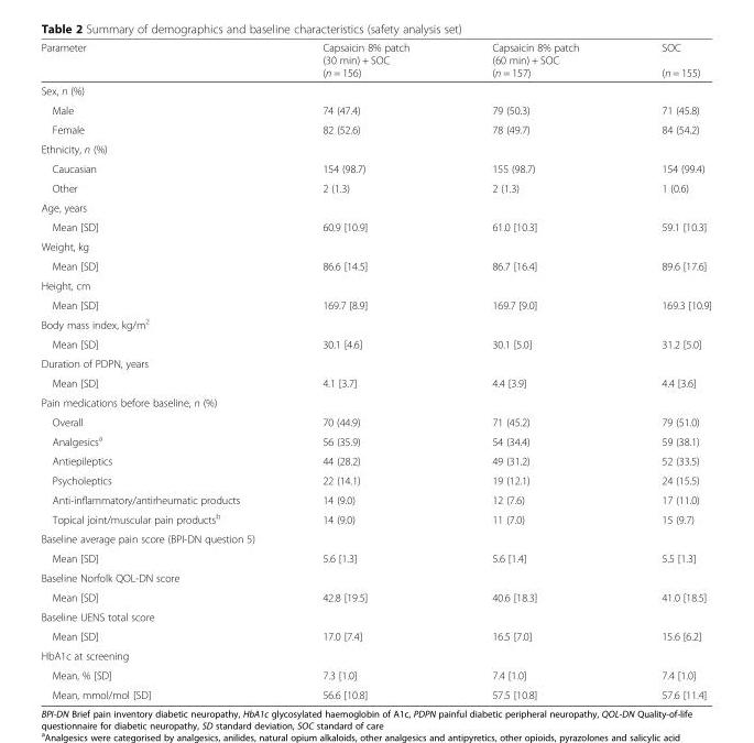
<table><thead><tr><td>Parameter</td><td>Capsaicin 8% patch (30 min) + SOC (n = 156)</td><td>Capsaicin 8% patch (60 min) + SOC (n = 157)</td><td>SOC (n = 155)</td></tr></thead><tbody><tr><td colspan="4">Sex, n (%)</td></tr><tr><td>Male</td><td>74 (47.4)</td><td>79 (50.3)</td><td>71 (45.8)</td></tr><tr><td>Female</td><td>82 (52.6)</td><td>78 (49.7)</td><td>84 (54.2)</td></tr><tr><td colspan="4">Ethnicity, n (%)</td></tr><tr><td>Caucasian</td><td>154 (98.7)</td><td>155 (98.7)</td><td>154 (99.4)</td></tr><tr><td>Other</td><td>2 (1.3)</td><td>2 (1.3)</td><td>1 (0.6)</td></tr><tr><td colspan="4">Age, years</td></tr><tr><td>Mean [SD]</td><td>60.9 [10.9]</td><td>61.0 [10.3]</td><td>59.1 [10.3]</td></tr><tr><td colspan="4">Weight, kg</td></tr><tr><td>Mean [SD]</td><td>86.6 [14.5]</td><td>86.7 [16.4]</td><td>89.6 [17.6]</td></tr><tr><td colspan="4">Height, cm</td></tr><tr><td>Mean [SD]</td><td>169.7 [8.9]</td><td>169.7 [9.0]</td><td>169.3 [10.9]</td></tr><tr><td colspan="4">Body mass index, kg/m<sup>2</sup></td></tr><tr><td>Mean [SD]</td><td>30.1 [4.6]</td><td>30.1 [5.0]</td><td>31.2 [5.0]</td></tr><tr><td colspan="4">Duration of PDPN, years</td></tr><tr><td>Mean [SD]</td><td>4.1 [3.7]</td><td>4.4 [3.9]</td><td>4.4 [3.6]</td></tr><tr><td colspan="4">Pain medications before baseline, n (%)</td></tr><tr><td>Overall</td><td>70 (44.9)</td><td>71 (45.2)</td><td>79 (51.0)</td></tr><tr><td>Analgesics<sup>a</sup></td><td>56 (35.9)</td><td>54 (34.4)</td><td>59 (38.1)</td></tr><tr><td>Antiepileptics</td><td>44 (28.2)</td><td>49 (31.2)</td><td>52 (33.5)</td></tr><tr><td>Psycholeptics</td><td>22 (14.1)</td><td>19 (12.1)</td><td>24 (15.5)</td></tr><tr><td>Anti-inflammatory/antirheumatic products</td><td>14 (9.0)</td><td>12 (7.6)</td><td>17 (11.0)</td></tr><tr><td>Topical joint/muscular pain products<sup>b</sup></td><td>14 (9.0)</td><td>11 (7.0)</td><td>15 (9.7)</td></tr><tr><td colspan="4">Baseline average pain score (BPI-DN question 5)</td></tr><tr><td>Mean [SD]</td><td>5.6 [1.3]</td><td>5.6 [1.4]</td><td>5.5 [1.3]</td></tr><tr><td colspan="4">Baseline Norfolk QOL-DN score</td></tr><tr><td>Mean [SD]</td><td>42.8 [19.5]</td><td>40.6 [18.3]</td><td>41.0 [18.5]</td></tr><tr><td colspan="4">Baseline UENS total score</td></tr><tr><td>Mean [SD]</td><td>17.0 [7.4]</td><td>16.5 [7.0]</td><td>15.6 [6.2]</td></tr><tr><td colspan="4">HbA1c at screening</td></tr><tr><td>Mean, % [SD]</td><td>7.3 [1.0]</td><td>7.4 [1.0]</td><td>7.4 [1.0]</td></tr><tr><td>Mean, mmol/mol [SD]</td><td>56.6 [10.8]</td><td>57.5 [10.8]</td><td>57.6 [11.4]</td></tr></tbody></table>